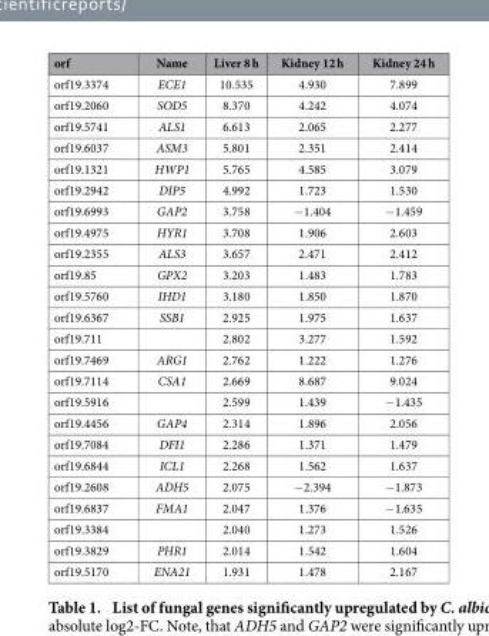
<table><thead><tr><td>orf</td><td>Name</td><td>Liver 8 h</td><td>Kidney 12 h</td><td>Kidney 24 h</td></tr></thead><tbody><tr><td>orf19.3374</td><td>ECE1</td><td>10.535</td><td>4.930</td><td>7.899</td></tr><tr><td>orf19.2060</td><td>SOD5</td><td>8.370</td><td>4.242</td><td>4.074</td></tr><tr><td>orf19.5741</td><td>ALS1</td><td>6.613</td><td>2.065</td><td>2.277</td></tr><tr><td>orf19.6037</td><td>ASM3</td><td>5.801</td><td>2.351</td><td>2.414</td></tr><tr><td>orf19.1321</td><td>HWP1</td><td>5.765</td><td>4.585</td><td>3.079</td></tr><tr><td>orf19.2942</td><td>DIP5</td><td>4.992</td><td>1.723</td><td>1.530</td></tr><tr><td>orf19.6993</td><td>GAP2</td><td>3.758</td><td>− 1.404</td><td>− 1.459</td></tr><tr><td>orf19.4975</td><td>HYR1</td><td>3.708</td><td>1.906</td><td>2.603</td></tr><tr><td>orf19.2355</td><td>ALS3</td><td>3.657</td><td>2.471</td><td>2.412</td></tr><tr><td>orf19.85</td><td>GPX2</td><td>3.203</td><td>1.483</td><td>1.783</td></tr><tr><td>orf19.5760</td><td>IHD1</td><td>3.180</td><td>1.850</td><td>1.870</td></tr><tr><td>orf19.6367</td><td>SSB1</td><td>2.925</td><td>1.975</td><td>1.637</td></tr><tr><td>orf19.711</td><td></td><td>2.802</td><td>3.277</td><td>1.592</td></tr><tr><td>orf19.7469</td><td>ARG1</td><td>2.762</td><td>1.222</td><td>1.276</td></tr><tr><td>orf19.7114</td><td>CSA1</td><td>2.669</td><td>8.687</td><td>9.024</td></tr><tr><td>orf19.5916</td><td></td><td>2.599</td><td>1.439</td><td>− 1.435</td></tr><tr><td>orf19.4456</td><td>GAP4</td><td>2.314</td><td>1.896</td><td>2.056</td></tr><tr><td>orf19.7084</td><td>DFI1</td><td>2.286</td><td>1.371</td><td>1.479</td></tr><tr><td>orf19.6844</td><td>ICL1</td><td>2.268</td><td>1.562</td><td>1.637</td></tr><tr><td>orf19.2608</td><td>ADH5</td><td>2.075</td><td>− 2.394</td><td>− 1.873</td></tr><tr><td>orf19.6837</td><td>FMA1</td><td>2.047</td><td>1.376</td><td>− 1.635</td></tr><tr><td>orf19.3384</td><td></td><td>2.040</td><td>1.273</td><td>1.526</td></tr><tr><td>orf19.3829</td><td>PHR1</td><td>2.014</td><td>1.542</td><td>1.604</td></tr><tr><td>orf19.5170</td><td>ENA21</td><td>1.931</td><td>1.478</td><td>2.167</td></tr></tbody></table>